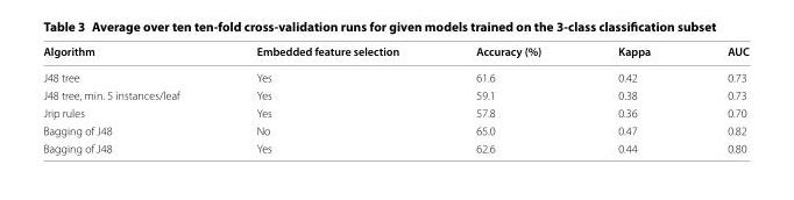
<table><thead><tr><td>Algorithm</td><td>Embedded feature selection</td><td>Accuracy (%)</td><td>Kappa</td><td>AUC</td></tr></thead><tbody><tr><td>J48 tree</td><td>Yes</td><td>61.6</td><td>0.42</td><td>0.73</td></tr><tr><td>J48 tree, min. 5 instances/leaf</td><td>Yes</td><td>59.1</td><td>0.38</td><td>0.73</td></tr><tr><td>Jrip rules</td><td>Yes</td><td>57.8</td><td>0.36</td><td>0.70</td></tr><tr><td>Bagging of J48</td><td>No</td><td>65.0</td><td>0.47</td><td>0.82</td></tr><tr><td>Bagging of J48</td><td>Yes</td><td>62.6</td><td>0.44</td><td>0.80</td></tr></tbody></table>